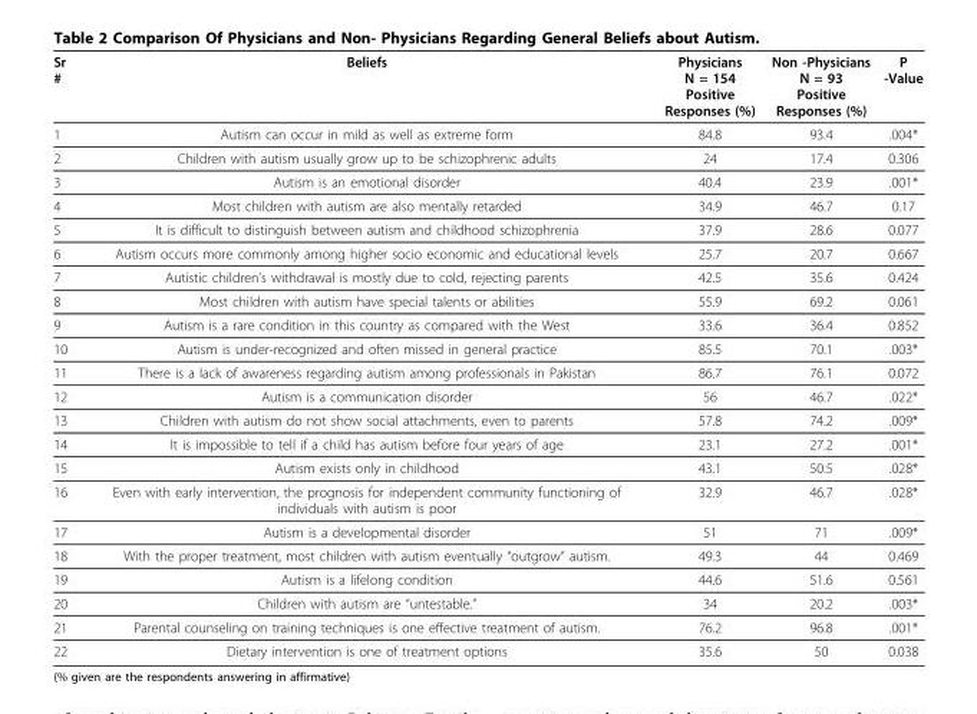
<table><thead><tr><td>Sr #</td><td>Beliefs</td><td>Physicians N = 154 Positive Responses (%)</td><td>Non -Physicians N = 93 Positive Responses (%)</td><td>P -Value</td></tr></thead><tbody><tr><td>1</td><td>Autism can occur in mild as well as extreme form</td><td>84.8</td><td>93.4</td><td>.004*</td></tr><tr><td>2</td><td>Children with autism usually grow up to be schizophrenic adults</td><td>24</td><td>17.4</td><td>0.306</td></tr><tr><td>3</td><td>Autism is an emotional disorder</td><td>40.4</td><td>23.9</td><td>.001*</td></tr><tr><td>4</td><td>Most children with autism are also mentally retarded</td><td>34.9</td><td>46.7</td><td>0.17</td></tr><tr><td>5</td><td>It is difficult to distinguish between autism and childhood schizophrenia</td><td>37.9</td><td>28.6</td><td>0.077</td></tr><tr><td>6</td><td>Autism occurs more commonly among higher socio economic and educational levels</td><td>25.7</td><td>20.7</td><td>0.667</td></tr><tr><td>7</td><td>Autistic children’s withdrawal is mostly due to cold, rejecting parents</td><td>42.5</td><td>35.6</td><td>0.424</td></tr><tr><td>8</td><td>Most children with autism have special talents or abilities</td><td>55.9</td><td>69.2</td><td>0.061</td></tr><tr><td>9</td><td>Autism is a rare condition in this country as compared with the West</td><td>33.6</td><td>36.4</td><td>0.852</td></tr><tr><td>10</td><td>Autism is under-recognized and often missed in general practice</td><td>85.5</td><td>70.1</td><td>.003*</td></tr><tr><td>11</td><td>There is a lack of awareness regarding autism among professionals in Pakistan</td><td>86.7</td><td>76.1</td><td>0.072</td></tr><tr><td>12</td><td>Autism is a communication disorder</td><td>56</td><td>46.7</td><td>.022*</td></tr><tr><td>13</td><td>Children with autism do not show social attachments, even to parents</td><td>57.8</td><td>74.2</td><td>.009*</td></tr><tr><td>14</td><td>It is impossible to tell if a child has autism before four years of age</td><td>23.1</td><td>27.2</td><td>.001*</td></tr><tr><td>15</td><td>Autism exists only in childhood</td><td>43.1</td><td>50.5</td><td>.028*</td></tr><tr><td>16</td><td>Even with early intervention, the prognosis for independent community functioning of individuals with autism is poor</td><td>32.9</td><td>46.7</td><td>.028*</td></tr><tr><td>17</td><td>Autism is a developmental disorder</td><td>51</td><td>71</td><td>.009*</td></tr><tr><td>18</td><td>With the proper treatment, most children with autism eventually “outgrow” autism.</td><td>49.3</td><td>44</td><td>0.469</td></tr><tr><td>19</td><td>Autism is a lifelong condition</td><td>44.6</td><td>51.6</td><td>0.561</td></tr><tr><td>20</td><td>Children with autism are “untestable.”</td><td>34</td><td>20.2</td><td>.003*</td></tr><tr><td>21</td><td>Parental counseling on training techniques is one effective treatment of autism.</td><td>76.2</td><td>96.8</td><td>.001*</td></tr><tr><td>22</td><td>Dietary intervention is one of treatment options</td><td>35.6</td><td>50</td><td>0.038</td></tr></tbody></table>